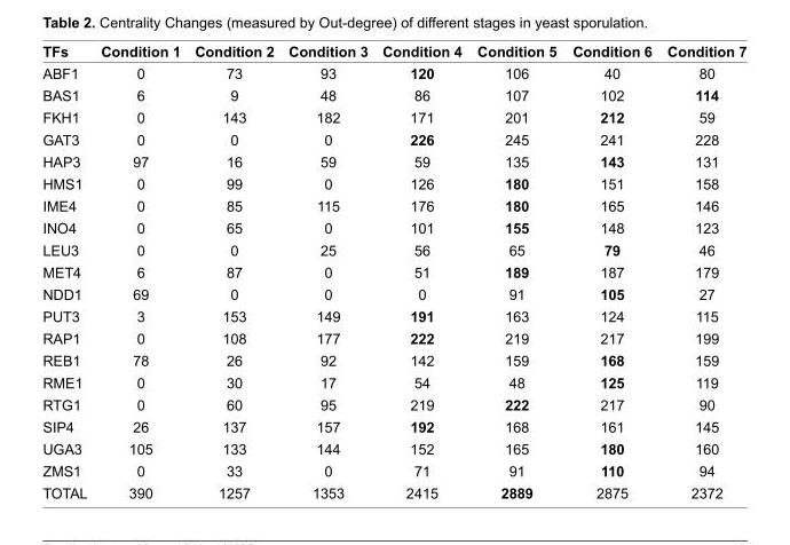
<table><thead><tr><td>TFs</td><td>Condition 1</td><td>Condition 2</td><td>Condition 3</td><td>Condition 4</td><td>Condition 5</td><td>Condition 6</td><td>Condition 7</td></tr></thead><tbody><tr><td>ABF1</td><td>0</td><td>73</td><td>93</td><td>120</td><td>106</td><td>40</td><td>80</td></tr><tr><td>BAS1</td><td>6</td><td>9</td><td>48</td><td>86</td><td>107</td><td>102</td><td>114</td></tr><tr><td>FKH1</td><td>0</td><td>143</td><td>182</td><td>171</td><td>201</td><td>212</td><td>59</td></tr><tr><td>GAT3</td><td>0</td><td>0</td><td>0</td><td>226</td><td>245</td><td>241</td><td>228</td></tr><tr><td>HAP3</td><td>97</td><td>16</td><td>59</td><td>59</td><td>135</td><td>143</td><td>131</td></tr><tr><td>HMS1</td><td>0</td><td>99</td><td>0</td><td>126</td><td>180</td><td>151</td><td>158</td></tr><tr><td>IME4</td><td>0</td><td>85</td><td>115</td><td>176</td><td>180</td><td>165</td><td>146</td></tr><tr><td>INO4</td><td>0</td><td>65</td><td>0</td><td>101</td><td>155</td><td>148</td><td>123</td></tr><tr><td>LEU3</td><td>0</td><td>0</td><td>25</td><td>56</td><td>65</td><td>79</td><td>46</td></tr><tr><td>MET4</td><td>6</td><td>87</td><td>0</td><td>51</td><td>189</td><td>187</td><td>179</td></tr><tr><td>NDD1</td><td>69</td><td>0</td><td>0</td><td>0</td><td>91</td><td>105</td><td>27</td></tr><tr><td>PUT3</td><td>3</td><td>153</td><td>149</td><td>191</td><td>163</td><td>124</td><td>115</td></tr><tr><td>RAP1</td><td>0</td><td>108</td><td>177</td><td>222</td><td>219</td><td>217</td><td>199</td></tr><tr><td>REB1</td><td>78</td><td>26</td><td>92</td><td>142</td><td>159</td><td>168</td><td>159</td></tr><tr><td>RME1</td><td>0</td><td>30</td><td>17</td><td>54</td><td>48</td><td>125</td><td>119</td></tr><tr><td>RTG1</td><td>0</td><td>60</td><td>95</td><td>219</td><td>222</td><td>217</td><td>90</td></tr><tr><td>SIP4</td><td>26</td><td>137</td><td>157</td><td>192</td><td>168</td><td>161</td><td>145</td></tr><tr><td>UGA3</td><td>105</td><td>133</td><td>144</td><td>152</td><td>165</td><td>180</td><td>160</td></tr><tr><td>ZMS1</td><td>0</td><td>33</td><td>0</td><td>71</td><td>91</td><td>110</td><td>94</td></tr><tr><td>TOTAL</td><td>390</td><td>1257</td><td>1353</td><td>2415</td><td>2889</td><td>2875</td><td>2372</td></tr></tbody></table>